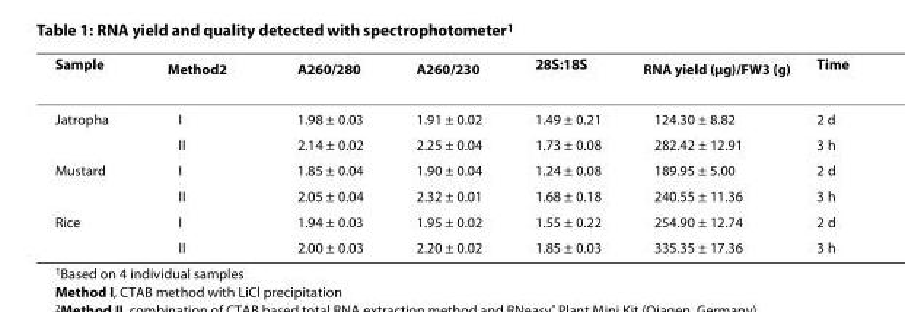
<table><thead><tr><td>Sample</td><td>Method<sup>2</sup></td><td>A<sub>260/280</sub></td><td>A<sub>260/230</sub></td><td>28S:18S</td><td>RNA yield (μg)/FW<sup>3</sup> (g)</td><td>Time</td></tr></thead><tbody><tr><td rowspan="2">Jatropha</td><td>I</td><td>1.98 ± 0.03</td><td>1.91 ± 0.02</td><td>1.49 ± 0.21</td><td>124.30 ± 8.82</td><td>2 d</td></tr><tr><td>II</td><td>2.14 ± 0.02</td><td>2.25 ± 0.04</td><td>1.73 ± 0.08</td><td>282.42 ± 12.91</td><td>3 h</td></tr><tr><td rowspan="2">Mustard</td><td>I</td><td>1.85 ± 0.04</td><td>1.90 ± 0.04</td><td>1.24 ± 0.08</td><td>189.95 ± 5.00</td><td>2 d</td></tr><tr><td>II</td><td>2.05 ± 0.04</td><td>2.32 ± 0.01</td><td>1.68 ± 0.18</td><td>240.55 ± 11.36</td><td>3 h</td></tr><tr><td rowspan="2">Rice</td><td>I</td><td>1.94 ± 0.03</td><td>1.95 ± 0.02</td><td>1.55 ± 0.22</td><td>254.90 ± 12.74</td><td>2 d</td></tr><tr><td>II</td><td>2.00 ± 0.03</td><td>2.20 ± 0.02</td><td>1.85 ± 0.03</td><td>335.35 ± 17.36</td><td>3 h</td></tr></tbody></table>